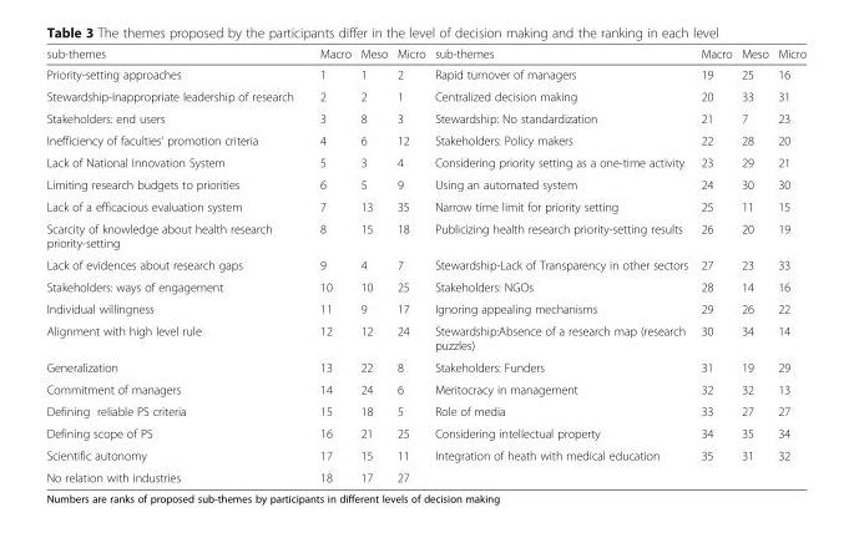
<table><thead><tr><td>sub-themes</td><td>Macro</td><td>Meso</td><td>Micro</td><td>sub-themes</td><td>Macro</td><td>Meso</td><td>Micro</td></tr></thead><tbody><tr><td>Priority-setting approaches</td><td>1</td><td>1</td><td>2</td><td>Rapid turnover of managers</td><td>19</td><td>25</td><td>16</td></tr><tr><td>Stewardship-Inappropriate leadership of research</td><td>2</td><td>2</td><td>1</td><td>Centralized decision making</td><td>20</td><td>33</td><td>31</td></tr><tr><td>Stakeholders: end users</td><td>3</td><td>8</td><td>3</td><td>Stewardship: No standardization</td><td>21</td><td>7</td><td>23</td></tr><tr><td>Inefficiency of faculties’ promotion criteria</td><td>4</td><td>6</td><td>12</td><td>Stakeholders: Policy makers</td><td>22</td><td>28</td><td>20</td></tr><tr><td>Lack of National Innovation System</td><td>5</td><td>3</td><td>4</td><td>Considering priority setting as a one-time activity</td><td>23</td><td>29</td><td>21</td></tr><tr><td>Limiting research budgets to priorities</td><td>6</td><td>5</td><td>9</td><td>Using an automated system</td><td>24</td><td>30</td><td>30</td></tr><tr><td>Lack of a efficacious evaluation system</td><td>7</td><td>13</td><td>35</td><td>Narrow time limit for priority setting</td><td>25</td><td>11</td><td>15</td></tr><tr><td>Scarcity of knowledge about health research priority-setting</td><td>8</td><td>15</td><td>18</td><td>Publicizing health research priority-setting results</td><td>26</td><td>20</td><td>19</td></tr><tr><td>Lack of evidences about research gaps</td><td>9</td><td>4</td><td>7</td><td>Stewardship-Lack of Transparency in other sectors</td><td>27</td><td>23</td><td>33</td></tr><tr><td>Stakeholders: ways of engagement</td><td>10</td><td>10</td><td>25</td><td>Stakeholders: NGOs</td><td>28</td><td>14</td><td>16</td></tr><tr><td>Individual willingness</td><td>11</td><td>9</td><td>17</td><td>Ignoring appealing mechanisms</td><td>29</td><td>26</td><td>22</td></tr><tr><td>Alignment with high level rule</td><td>12</td><td>12</td><td>24</td><td>Stewardship:Absence of a research map (research puzzles)</td><td>30</td><td>34</td><td>14</td></tr><tr><td>Generalization</td><td>13</td><td>22</td><td>8</td><td>Stakeholders: Funders</td><td>31</td><td>19</td><td>29</td></tr><tr><td>Commitment of managers</td><td>14</td><td>24</td><td>6</td><td>Meritocracy in management</td><td>32</td><td>32</td><td>13</td></tr><tr><td>Defining reliable PS criteria</td><td>15</td><td>18</td><td>5</td><td>Role of media</td><td>33</td><td>27</td><td>27</td></tr><tr><td>Defining scope of PS</td><td>16</td><td>21</td><td>25</td><td>Considering intellectual property</td><td>34</td><td>35</td><td>34</td></tr><tr><td>Scientific autonomy</td><td>17</td><td>15</td><td>11</td><td>Integration of heath with medical education</td><td>35</td><td>31</td><td>32</td></tr><tr><td>No relation with industries</td><td>18</td><td>17</td><td>27</td><td></td><td></td><td></td><td></td></tr></tbody></table>